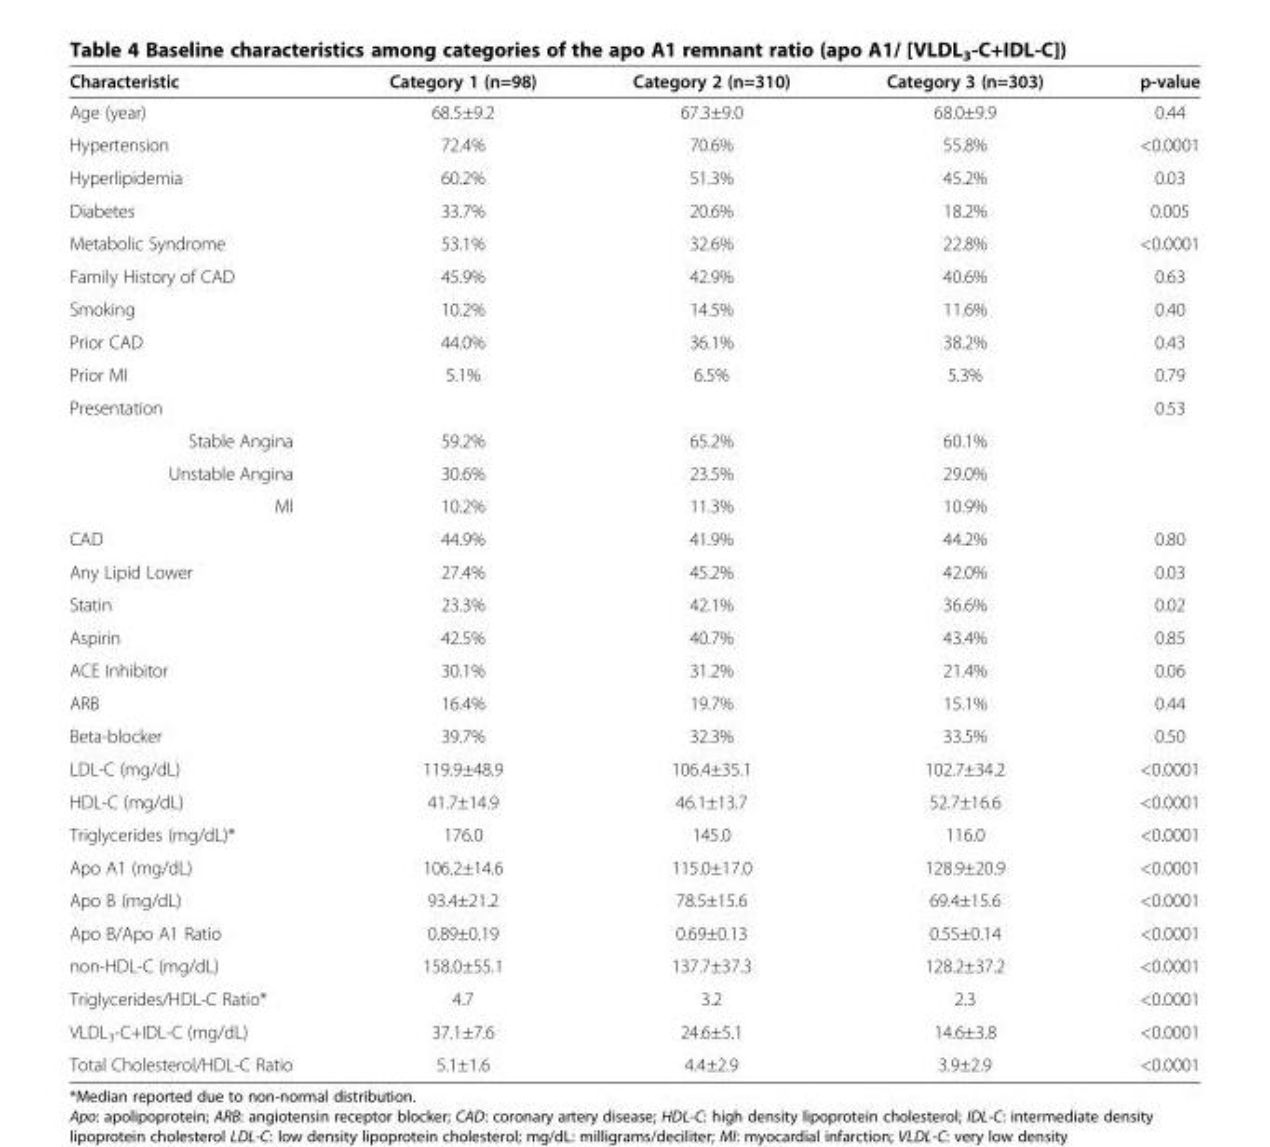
<table><thead><tr><td>Characteristic</td><td>Category 1 (n=98)</td><td>Category 2 (n=310)</td><td>Category 3 (n=303)</td><td>p-value</td></tr></thead><tbody><tr><td>Age (year)</td><td>68.5±9.2</td><td>67.3±9.0</td><td>68.0±9.9</td><td>0.44</td></tr><tr><td>Hypertension</td><td>72.4%</td><td>70.6%</td><td>55.8%</td><td>&lt;0.0001</td></tr><tr><td>Hyperlipidemia</td><td>60.2%</td><td>51.3%</td><td>45.2%</td><td>0.03</td></tr><tr><td>Diabetes</td><td>33.7%</td><td>20.6%</td><td>18.2%</td><td>0.005</td></tr><tr><td>Metabolic Syndrome</td><td>53.1%</td><td>32.6%</td><td>22.8%</td><td>&lt;0.0001</td></tr><tr><td>Family History of CAD</td><td>45.9%</td><td>42.9%</td><td>40.6%</td><td>0.63</td></tr><tr><td>Smoking</td><td>10.2%</td><td>14.5%</td><td>11.6%</td><td>0.40</td></tr><tr><td>Prior CAD</td><td>44.0%</td><td>36.1%</td><td>38.2%</td><td>0.43</td></tr><tr><td>Prior MI</td><td>5.1%</td><td>6.5%</td><td>5.3%</td><td>0.79</td></tr><tr><td>Presentation</td><td></td><td></td><td></td><td>0.53</td></tr><tr><td>Stable Angina</td><td>59.2%</td><td>65.2%</td><td>60.1%</td><td></td></tr><tr><td>Unstable Angina</td><td>30.6%</td><td>23.5%</td><td>29.0%</td><td></td></tr><tr><td>MI</td><td>10.2%</td><td>11.3%</td><td>10.9%</td><td></td></tr><tr><td>CAD</td><td>44.9%</td><td>41.9%</td><td>44.2%</td><td>0.80</td></tr><tr><td>Any Lipid Lower</td><td>27.4%</td><td>45.2%</td><td>42.0%</td><td>0.03</td></tr><tr><td>Statin</td><td>23.3%</td><td>42.1%</td><td>36.6%</td><td>0.02</td></tr><tr><td>Aspirin</td><td>42.5%</td><td>40.7%</td><td>43.4%</td><td>0.85</td></tr><tr><td>ACE Inhibitor</td><td>30.1%</td><td>31.2%</td><td>21.4%</td><td>0.06</td></tr><tr><td>ARB</td><td>16.4%</td><td>19.7%</td><td>15.1%</td><td>0.44</td></tr><tr><td>Beta-blocker</td><td>39.7%</td><td>32.3%</td><td>33.5%</td><td>0.50</td></tr><tr><td>LDL-C (mg/dL)</td><td>119.9±48.9</td><td>106.4±35.1</td><td>102.7±34.2</td><td>&lt;0.0001</td></tr><tr><td>HDL-C (mg/dL)</td><td>41.7±14.9</td><td>46.1±13.7</td><td>52.7±16.6</td><td>&lt;0.0001</td></tr><tr><td>Triglycerides (mg/dL)*</td><td>176.0</td><td>145.0</td><td>116.0</td><td>&lt;0.0001</td></tr><tr><td>Apo A1 (mg/dL)</td><td>106.2±14.6</td><td>115.0±17.0</td><td>128.9±20.9</td><td>&lt;0.0001</td></tr><tr><td>Apo B (mg/dL)</td><td>93.4±21.2</td><td>78.5±15.6</td><td>69.4±15.6</td><td>&lt;0.0001</td></tr><tr><td>Apo B/Apo A1 Ratio</td><td>0.89±0.19</td><td>0.69±0.13</td><td>0.55±0.14</td><td>&lt;0.0001</td></tr><tr><td>non-HDL-C (mg/dL)</td><td>158.0±55.1</td><td>137.7±37.3</td><td>128.2±37.2</td><td>&lt;0.0001</td></tr><tr><td>Triglycerides/HDL-C Ratio*</td><td>4.7</td><td>3.2</td><td>2.3</td><td>&lt;0.0001</td></tr><tr><td>VLDL<sub>3</sub>-C+IDL-C (mg/dL)</td><td>37.1±7.6</td><td>24.6±5.1</td><td>14.6±3.8</td><td>&lt;0.0001</td></tr><tr><td>Total Cholesterol/HDL-C Ratio</td><td>5.1±1.6</td><td>4.4±2.9</td><td>3.9±2.9</td><td>&lt;0.0001</td></tr></tbody></table>